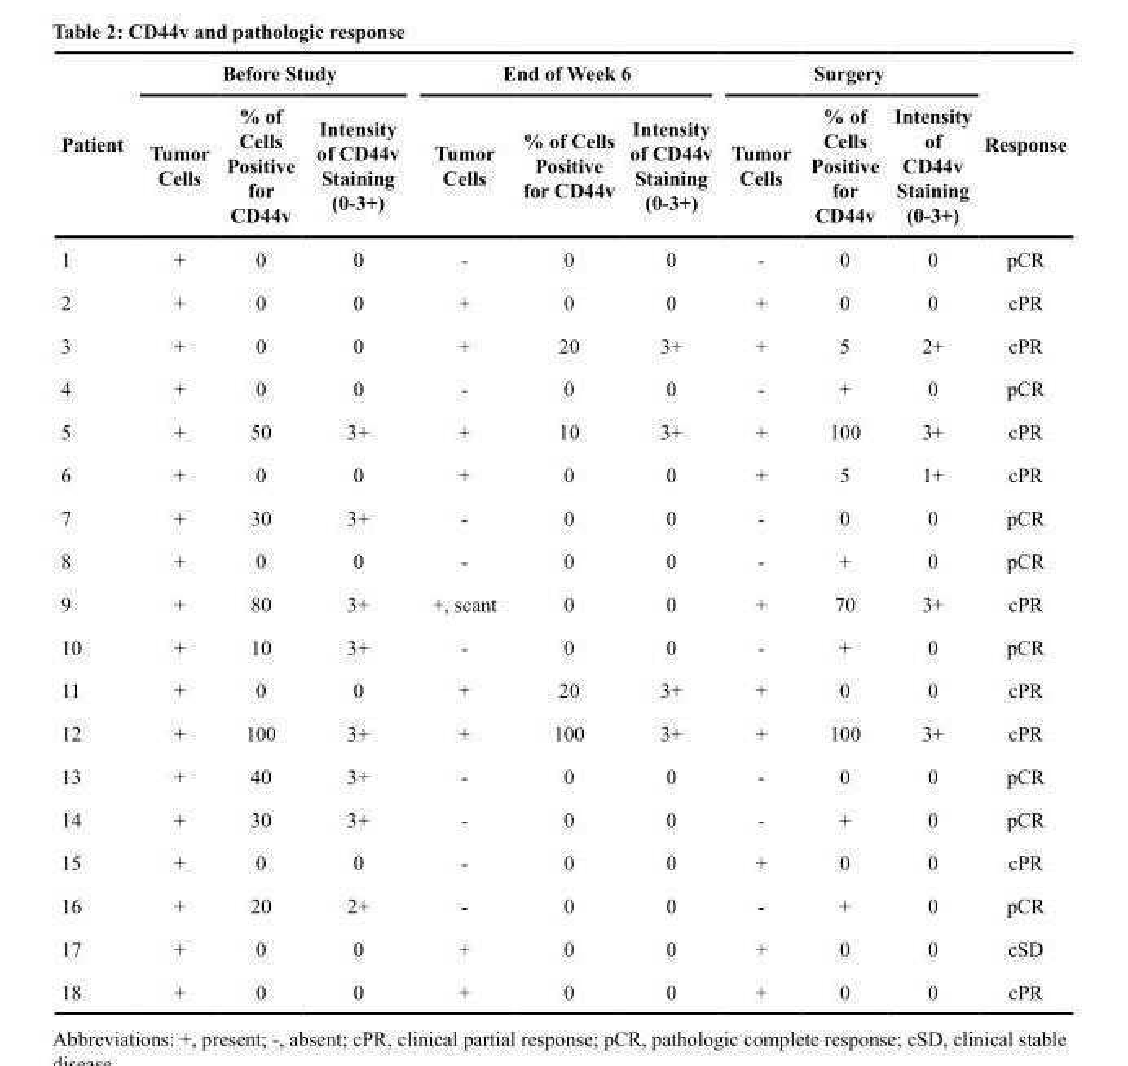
<table><thead><tr><td rowspan="2">Patient</td><td colspan="3">Before Study</td><td colspan="3">End of Week 6</td><td colspan="3">Surgery</td><td rowspan="2">Response</td></tr><tr><td>Tumor Cells</td><td>% of Cells Positive for CD44v</td><td>Intensity of CD44v Staining (0-3+)</td><td>Tumor Cells</td><td>% of Cells Positive for CD44v</td><td>Intensity of CD44v Staining (0-3+)</td><td>Tumor Cells</td><td>% of Cells Positive for CD44v</td><td>Intensity of CD44v Staining (0-3+)</td></tr></thead><tbody><tr><td>1</td><td>+</td><td>0</td><td>0</td><td>-</td><td>0</td><td>0</td><td>-</td><td>0</td><td>0</td><td>pCR</td></tr><tr><td>2</td><td>+</td><td>0</td><td>0</td><td>+</td><td>0</td><td>0</td><td>+</td><td>0</td><td>0</td><td>cPR</td></tr><tr><td>3</td><td>+</td><td>0</td><td>0</td><td>+</td><td>20</td><td>3+</td><td>+</td><td>5</td><td>2+</td><td>cPR</td></tr><tr><td>4</td><td>+</td><td>0</td><td>0</td><td>-</td><td>0</td><td>0</td><td>-</td><td>+</td><td>0</td><td>pCR</td></tr><tr><td>5</td><td>+</td><td>50</td><td>3+</td><td>+</td><td>10</td><td>3+</td><td>+</td><td>100</td><td>3+</td><td>cPR</td></tr><tr><td>6</td><td>+</td><td>0</td><td>0</td><td>+</td><td>0</td><td>0</td><td>+</td><td>5</td><td>1+</td><td>cPR</td></tr><tr><td>7</td><td>+</td><td>30</td><td>3+</td><td>-</td><td>0</td><td>0</td><td>-</td><td>0</td><td>0</td><td>pCR</td></tr><tr><td>8</td><td>+</td><td>0</td><td>0</td><td>-</td><td>0</td><td>0</td><td>-</td><td>+</td><td>0</td><td>pCR</td></tr><tr><td>9</td><td>+</td><td>80</td><td>3+</td><td>+, scant</td><td>0</td><td>0</td><td>+</td><td>70</td><td>3+</td><td>cPR</td></tr><tr><td>10</td><td>+</td><td>10</td><td>3+</td><td>-</td><td>0</td><td>0</td><td>-</td><td>+</td><td>0</td><td>pCR</td></tr><tr><td>11</td><td>+</td><td>0</td><td>0</td><td>+</td><td>20</td><td>3+</td><td>+</td><td>0</td><td>0</td><td>cPR</td></tr><tr><td>12</td><td>+</td><td>100</td><td>3+</td><td>+</td><td>100</td><td>3+</td><td>+</td><td>100</td><td>3+</td><td>cPR</td></tr><tr><td>13</td><td>+</td><td>40</td><td>3+</td><td>-</td><td>0</td><td>0</td><td>-</td><td>0</td><td>0</td><td>pCR</td></tr><tr><td>14</td><td>+</td><td>30</td><td>3+</td><td>-</td><td>0</td><td>0</td><td>-</td><td>+</td><td>0</td><td>pCR</td></tr><tr><td>15</td><td>+</td><td>0</td><td>0</td><td>-</td><td>0</td><td>0</td><td>+</td><td>0</td><td>0</td><td>cPR</td></tr><tr><td>16</td><td>+</td><td>20</td><td>2+</td><td>-</td><td>0</td><td>0</td><td>-</td><td>+</td><td>0</td><td>pCR</td></tr><tr><td>17</td><td>+</td><td>0</td><td>0</td><td>+</td><td>0</td><td>0</td><td>+</td><td>0</td><td>0</td><td>cSD</td></tr><tr><td>18</td><td>+</td><td>0</td><td>0</td><td>+</td><td>0</td><td>0</td><td>+</td><td>0</td><td>0</td><td>cPR</td></tr></tbody></table>